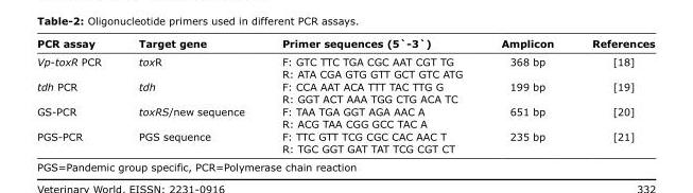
<table><thead><tr><td>PCR assay</td><td>Target gene</td><td>Primer sequences (5`-3`)</td><td>Amplicon</td><td>References</td></tr></thead><tbody><tr><td>Vp-toxR PCR</td><td>toxR</td><td>F: GTC TTC TGA CGC AAT CGT TG R: ATA CGA GTG GTT GCT GTC ATG</td><td>368 bp</td><td>[18]</td></tr><tr><td>tdh PCR</td><td>tdh</td><td>F: CCA AAT ACA TTT TAC TTG G R: GGT ACT AAA TGG CTG ACA TC</td><td>199 bp</td><td>[19]</td></tr><tr><td>GS-PCR</td><td>toxRS/new sequence</td><td>F: TAA TGA GGT AGA AAC A R: ACG TAA CGG GCC TAC A</td><td>651 bp</td><td>[20]</td></tr><tr><td>PGS-PCR</td><td>PGS sequence</td><td>F: TTC GTT TCG CGC CAC AAC T R: TGC GGT GAT TAT TCG CGT CT</td><td>235 bp</td><td>[21]</td></tr></tbody></table>